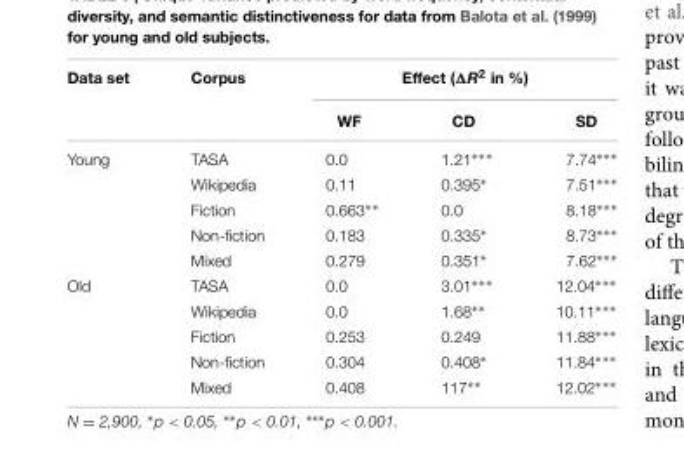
<table><thead><tr><td rowspan="2">Data set</td><td rowspan="2">Corpus</td><td colspan="3">Effect (ΔR<sup>2</sup> in %)</td></tr><tr><td>WF</td><td>CD</td><td>SD</td></tr></thead><tbody><tr><td rowspan="5">Young</td><td>TASA</td><td>0.0</td><td>1.21∗∗∗</td><td>7.74∗∗∗</td></tr><tr><td>Wikipedia</td><td>0.11</td><td>0.395∗</td><td>7.51∗∗∗</td></tr><tr><td>Fiction</td><td>0.663∗∗</td><td>0.0</td><td>8.18∗∗∗</td></tr><tr><td>Non-fiction</td><td>0.183</td><td>0.335∗</td><td>8.73∗∗∗</td></tr><tr><td>Mixed</td><td>0.279</td><td>0.351∗</td><td>7.62∗∗∗</td></tr><tr><td rowspan="5">Old</td><td>TASA</td><td>0.0</td><td>3.01∗∗∗</td><td>12.04∗∗∗</td></tr><tr><td>Wikipedia</td><td>0.0</td><td>1.68∗∗</td><td>10.11∗∗∗</td></tr><tr><td>Fiction</td><td>0.253</td><td>0.249</td><td>11.88∗∗∗</td></tr><tr><td>Non-fiction</td><td>0.304</td><td>0.408∗</td><td>11.84∗∗∗</td></tr><tr><td>Mixed</td><td>0.408</td><td>117∗∗</td><td>12.02∗∗∗</td></tr></tbody></table>